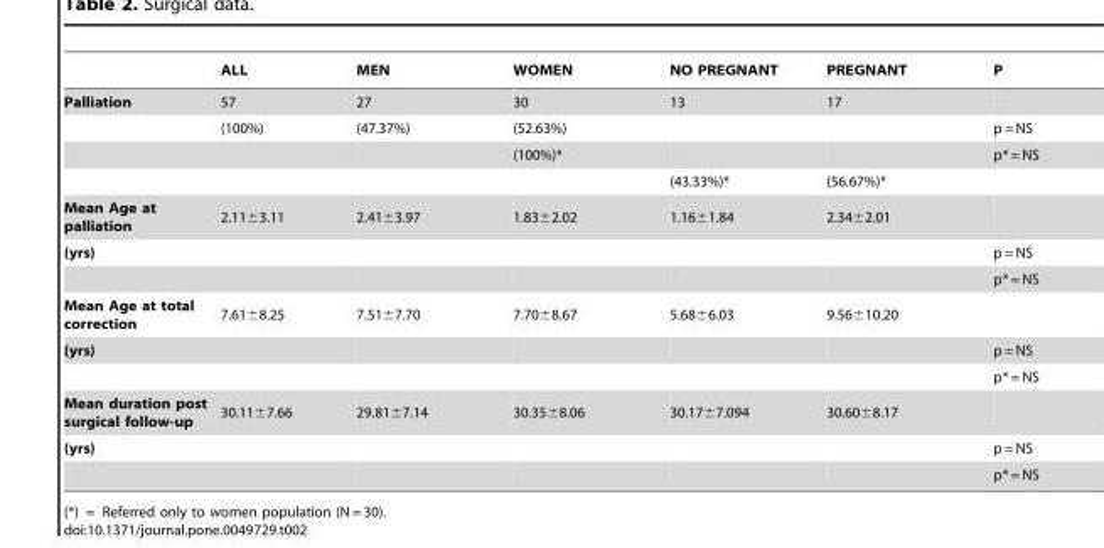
<table><thead><tr><td></td><td>ALL</td><td>MEN</td><td>WOMEN</td><td>NO PREGNANT</td><td>PREGNANT</td><td>P</td></tr></thead><tbody><tr><td rowspan="4">Palliation</td><td>57</td><td>27</td><td>30</td><td>13</td><td>17</td><td></td></tr><tr><td>(100%)</td><td>(47.37%)</td><td>(52.63%)</td><td></td><td></td><td>p = NS</td></tr><tr><td></td><td></td><td>(100%)*</td><td></td><td></td><td>p* = NS</td></tr><tr><td></td><td></td><td></td><td>(43.33%)*</td><td>(56.67%)*</td><td></td></tr><tr><td>Mean Age at palliation</td><td>2.11±3.11</td><td>2.41±3.97</td><td>1.83±2.02</td><td>1.16±1.84</td><td>2.34±2.01</td><td></td></tr><tr><td rowspan="2">(yrs)</td><td></td><td></td><td></td><td></td><td></td><td>p = NS</td></tr><tr><td></td><td></td><td></td><td></td><td></td><td>p* = NS</td></tr><tr><td>Mean Age at total correction</td><td>7.61±8.25</td><td>7.51±7.70</td><td>7.70±8.67</td><td>5.68±6.03</td><td>9.56±10.20</td><td></td></tr><tr><td rowspan="2">(yrs)</td><td></td><td></td><td></td><td></td><td></td><td>p = NS</td></tr><tr><td></td><td></td><td></td><td></td><td></td><td>p* = NS</td></tr><tr><td>Mean duration post surgical follow-up</td><td>30.11±7.66</td><td>29.81±7.14</td><td>30.35±8.06</td><td>30.17±7.094</td><td>30.60±8.17</td><td></td></tr><tr><td rowspan="2">(yrs)</td><td></td><td></td><td></td><td></td><td></td><td>p = NS</td></tr><tr><td></td><td></td><td></td><td></td><td></td><td>p* = NS</td></tr></tbody></table>